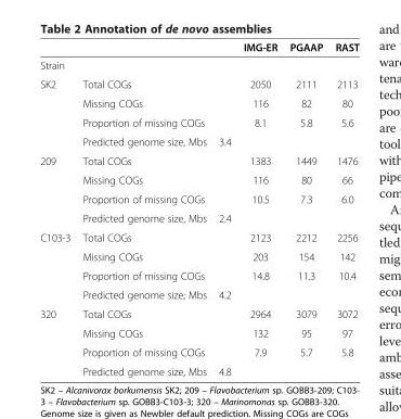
<table><thead><tr><td></td><td></td><td></td><td>IMG-ER</td><td>PGAAP</td><td>RAST</td></tr></thead><tbody><tr><td colspan="6">Strain</td></tr><tr><td rowspan="4">SK2</td><td>Total COGs</td><td></td><td>2050</td><td>2111</td><td>2113</td></tr><tr><td>Missing COGs</td><td></td><td>116</td><td>82</td><td>80</td></tr><tr><td>Proportion of missing COGs</td><td></td><td>8.1</td><td>5.8</td><td>5.6</td></tr><tr><td>Predicted genome size, Mbs</td><td>3.4</td><td></td><td></td><td></td></tr><tr><td rowspan="4">209</td><td>Total COGs</td><td></td><td>1383</td><td>1449</td><td>1476</td></tr><tr><td>Missing COGs</td><td></td><td>116</td><td>80</td><td>66</td></tr><tr><td>Proportion of missing COGs</td><td></td><td>10.5</td><td>7.3</td><td>6.0</td></tr><tr><td>Predicted genome size, Mbs</td><td>2.4</td><td></td><td></td><td></td></tr><tr><td rowspan="4">C103-3</td><td>Total COGs</td><td></td><td>2123</td><td>2212</td><td>2256</td></tr><tr><td>Missing COGs</td><td></td><td>203</td><td>154</td><td>142</td></tr><tr><td>Proportion of missing COGs</td><td></td><td>14.8</td><td>11.3</td><td>10.4</td></tr><tr><td>Predicted genome size; Mbs</td><td>4.2</td><td></td><td></td><td></td></tr><tr><td rowspan="4">320</td><td>Total COGs</td><td></td><td>2964</td><td>3079</td><td>3072</td></tr><tr><td>Missing COGs</td><td></td><td>132</td><td>95</td><td>97</td></tr><tr><td>Proportion of missing COGs</td><td></td><td>7.9</td><td>5.7</td><td>5.8</td></tr><tr><td>Predicted genome size, Mbs</td><td>4.8</td><td></td><td></td><td></td></tr></tbody></table>